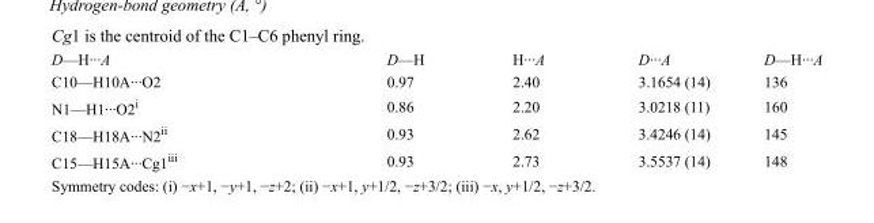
<table><tbody><tr><td>D—H···A</td><td>D—H</td><td>H···A</td><td>D···A</td><td>D—H···A</td></tr><tr><td>C10—H10A···O2</td><td>0.97</td><td>2.40</td><td>3.1654 (14)</td><td>136</td></tr><tr><td>N1—H1···O2<sup>i</sup></td><td>0.86</td><td>2.20</td><td>3.0218 (11)</td><td>160</td></tr><tr><td>C18—H18A···N2<sup>ii</sup></td><td>0.93</td><td>2.62</td><td>3.4246 (14)</td><td>145</td></tr><tr><td>C15—H15A···Cg1<sup>iii</sup></td><td>0.93</td><td>2.73</td><td>3.5537 (14)</td><td>148</td></tr></tbody></table>